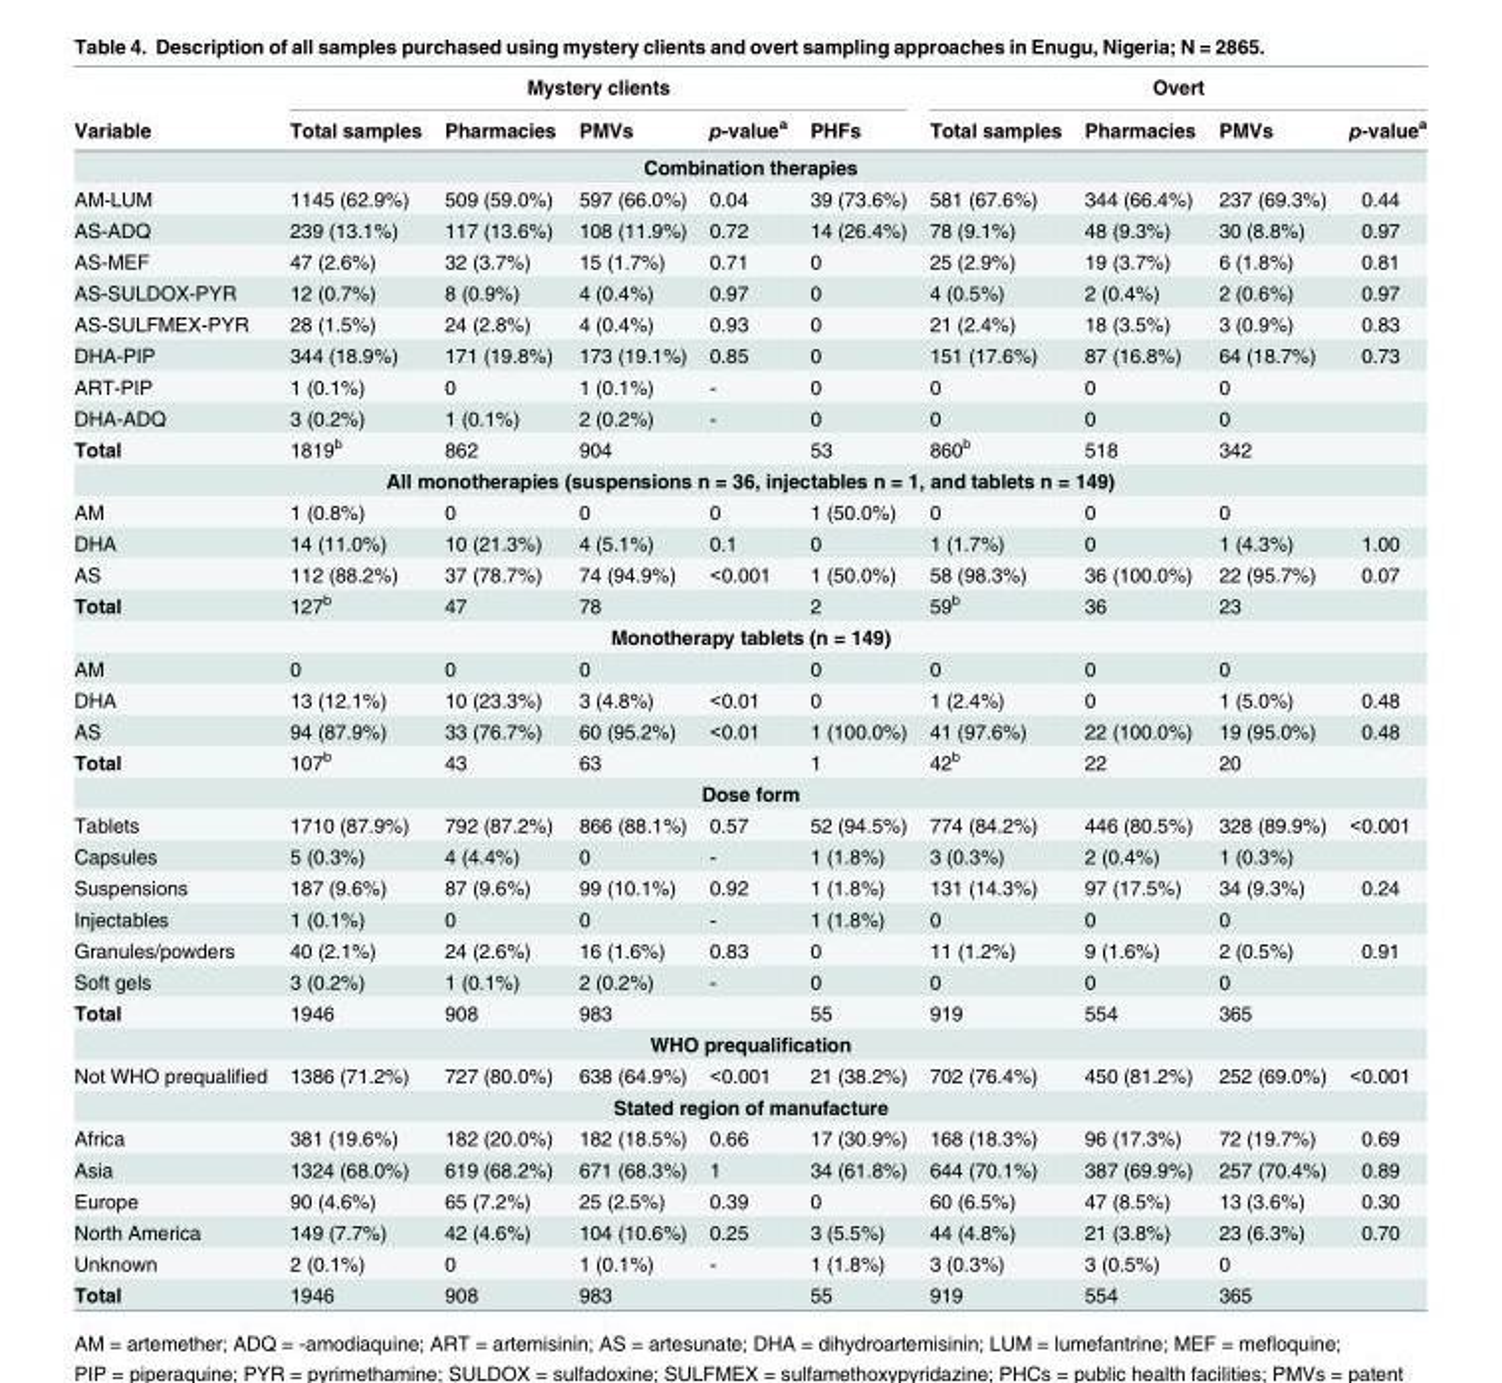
<table><thead><tr><td rowspan="2">Variable</td><td colspan="5">Mystery clients</td><td colspan="4">Overt</td></tr><tr><td>Total samples</td><td>Pharmacies</td><td>PMVs</td><td>p-value<sup>a</sup></td><td>PHFs</td><td>Total samples</td><td>Pharmacies</td><td>PMVs</td><td>p-value<sup>a</sup></td></tr></thead><tbody><tr><td colspan="10">Combination therapies</td></tr><tr><td>AM-LUM</td><td>1145 (62.9%)</td><td>509 (59.0%)</td><td>597 (66.0%)</td><td>0.04</td><td>39 (73.6%)</td><td>581 (67.6%)</td><td>344 (66.4%)</td><td>237 (69.3%)</td><td>0.44</td></tr><tr><td>AS-ADQ</td><td>239 (13.1%)</td><td>117 (13.6%)</td><td>108 (11.9%)</td><td>0.72</td><td>14 (26.4%)</td><td>78 (9.1%)</td><td>48 (9.3%)</td><td>30 (8.8%)</td><td>0.97</td></tr><tr><td>AS-MEF</td><td>47 (2.6%)</td><td>32 (3.7%)</td><td>15 (1.7%)</td><td>0.71</td><td>0</td><td>25 (2.9%)</td><td>19 (3.7%)</td><td>6 (1.8%)</td><td>0.81</td></tr><tr><td>AS-SULDOX-PYR</td><td>12 (0.7%)</td><td>8 (0.9%)</td><td>4 (0.4%)</td><td>0.97</td><td>0</td><td>4 (0.5%)</td><td>2 (0.4%)</td><td>2 (0.6%)</td><td>0.97</td></tr><tr><td>AS-SULFMEX-PYR</td><td>28 (1.5%)</td><td>24 (2.8%)</td><td>4 (0.4%)</td><td>0.93</td><td>0</td><td>21 (2.4%)</td><td>18 (3.5%)</td><td>3 (0.9%)</td><td>0.83</td></tr><tr><td>DHA-PIP</td><td>344 (18.9%)</td><td>171 (19.8%)</td><td>173 (19.1%)</td><td>0.85</td><td>0</td><td>151 (17.6%)</td><td>87 (16.8%)</td><td>64 (18.7%)</td><td>0.73</td></tr><tr><td>ART-PIP</td><td>1 (0.1%)</td><td>0</td><td>1 (0.1%)</td><td>-</td><td>0</td><td>0</td><td>0</td><td>0</td><td></td></tr><tr><td>DHA-ADQ</td><td>3 (0.2%)</td><td>1 (0.1%)</td><td>2 (0.2%)</td><td>-</td><td>0</td><td>0</td><td>0</td><td>0</td><td></td></tr><tr><td>Total</td><td>1819<sup>b</sup></td><td>862</td><td>904</td><td></td><td>53</td><td>860<sup>b</sup></td><td>518</td><td>342</td><td></td></tr><tr><td colspan="10">All monotherapies (suspensions n = 36, injectables n = 1, and tablets n = 149)</td></tr><tr><td>AM</td><td>1 (0.8%)</td><td>0</td><td>0</td><td>0</td><td>1 (50.0%)</td><td>0</td><td>0</td><td>0</td><td></td></tr><tr><td>DHA</td><td>14 (11.0%)</td><td>10 (21.3%)</td><td>4 (5.1%)</td><td>0.1</td><td>0</td><td>1 (1.7%)</td><td>0</td><td>1 (4.3%)</td><td>1.00</td></tr><tr><td>AS</td><td>112 (88.2%)</td><td>37 (78.7%)</td><td>74 (94.9%)</td><td>&lt;0.001</td><td>1 (50.0%)</td><td>58 (98.3%)</td><td>36 (100.0%)</td><td>22 (95.7%)</td><td>0.07</td></tr><tr><td>Total</td><td>127<sup>b</sup></td><td>47</td><td>78</td><td></td><td>2</td><td>59<sup>b</sup></td><td>36</td><td>23</td><td></td></tr><tr><td colspan="10">Monotherapy tablets (n = 149)</td></tr><tr><td>AM</td><td>0</td><td>0</td><td>0</td><td></td><td>0</td><td>0</td><td>0</td><td>0</td><td></td></tr><tr><td>DHA</td><td>13 (12.1%)</td><td>10 (23.3%)</td><td>3 (4.8%)</td><td>&lt;0.01</td><td>0</td><td>1 (2.4%)</td><td>0</td><td>1 (5.0%)</td><td>0.48</td></tr><tr><td>AS</td><td>94 (87.9%)</td><td>33 (76.7%)</td><td>60 (95.2%)</td><td>&lt;0.01</td><td>1 (100.0%)</td><td>41 (97.6%)</td><td>22 (100.0%)</td><td>19 (95.0%)</td><td>0.48</td></tr><tr><td>Total</td><td>107<sup>b</sup></td><td>43</td><td>63</td><td></td><td>1</td><td>42<sup>b</sup></td><td>22</td><td>20</td><td></td></tr><tr><td colspan="10">Dose form</td></tr><tr><td>Tablets</td><td>1710 (87.9%)</td><td>792 (87.2%)</td><td>866 (88.1%)</td><td>0.57</td><td>52 (94.5%)</td><td>774 (84.2%)</td><td>446 (80.5%)</td><td>328 (89.9%)</td><td>&lt;0.001</td></tr><tr><td>Capsules</td><td>5 (0.3%)</td><td>4 (4.4%)</td><td>0</td><td>-</td><td>1 (1.8%)</td><td>3 (0.3%)</td><td>2 (0.4%)</td><td>1 (0.3%)</td><td></td></tr><tr><td>Suspensions</td><td>187 (9.6%)</td><td>87 (9.6%)</td><td>99 (10.1%)</td><td>0.92</td><td>1 (1.8%)</td><td>131 (14.3%)</td><td>97 (17.5%)</td><td>34 (9.3%)</td><td>0.24</td></tr><tr><td>Injectables</td><td>1 (0.1%)</td><td>0</td><td>0</td><td>-</td><td>1 (1.8%)</td><td>0</td><td>0</td><td>0</td><td></td></tr><tr><td>Granules/powders</td><td>40 (2.1%)</td><td>24 (2.6%)</td><td>16 (1.6%)</td><td>0.83</td><td>0</td><td>11 (1.2%)</td><td>9 (1.6%)</td><td>2 (0.5%)</td><td>0.91</td></tr><tr><td>Soft gels</td><td>3 (0.2%)</td><td>1 (0.1%)</td><td>2 (0.2%)</td><td>-</td><td>0</td><td>0</td><td>0</td><td>0</td><td></td></tr><tr><td>Total</td><td>1946</td><td>908</td><td>983</td><td></td><td>55</td><td>919</td><td>554</td><td>365</td><td></td></tr><tr><td colspan="10">WHO prequalification</td></tr><tr><td>Not WHO prequalified</td><td>1386 (71.2%)</td><td>727 (80.0%)</td><td>638 (64.9%)</td><td>&lt;0.001</td><td>21 (38.2%)</td><td>702 (76.4%)</td><td>450 (81.2%)</td><td>252 (69.0%)</td><td>&lt;0.001</td></tr><tr><td colspan="10">Stated region of manufacture</td></tr><tr><td>Africa</td><td>381 (19.6%)</td><td>182 (20.0%)</td><td>182 (18.5%)</td><td>0.66</td><td>17 (30.9%)</td><td>168 (18.3%)</td><td>96 (17.3%)</td><td>72 (19.7%)</td><td>0.69</td></tr><tr><td>Asia</td><td>1324 (68.0%)</td><td>619 (68.2%)</td><td>671 (68.3%)</td><td>1</td><td>34 (61.8%)</td><td>644 (70.1%)</td><td>387 (69.9%)</td><td>257 (70.4%)</td><td>0.89</td></tr><tr><td>Europe</td><td>90 (4.6%)</td><td>65 (7.2%)</td><td>25 (2.5%)</td><td>0.39</td><td>0</td><td>60 (6.5%)</td><td>47 (8.5%)</td><td>13 (3.6%)</td><td>0.30</td></tr><tr><td>North America</td><td>149 (7.7%)</td><td>42 (4.6%)</td><td>104 (10.6%)</td><td>0.25</td><td>3 (5.5%)</td><td>44 (4.8%)</td><td>21 (3.8%)</td><td>23 (6.3%)</td><td>0.70</td></tr><tr><td>Unknown</td><td>2 (0.1%)</td><td>0</td><td>1 (0.1%)</td><td>-</td><td>1 (1.8%)</td><td>3 (0.3%)</td><td>3 (0.5%)</td><td>0</td><td></td></tr><tr><td>Total</td><td>1946</td><td>908</td><td>983</td><td></td><td>55</td><td>919</td><td>554</td><td>365</td><td></td></tr></tbody></table>